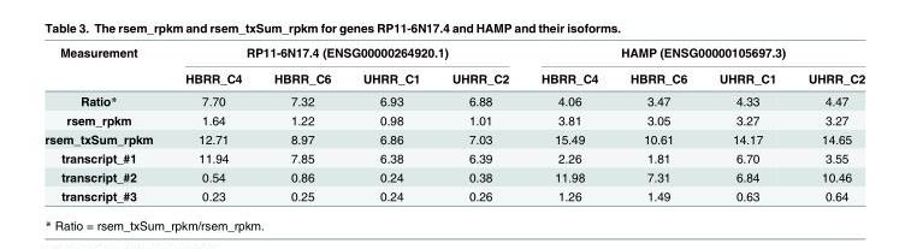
<table><thead><tr><td rowspan="2">Measurement</td><td colspan="4">RP11-6N17.4 (ENSG00000264920.1)</td><td colspan="4">HAMP (ENSG00000105697.3)</td></tr><tr><td>HBRR_C4</td><td>HBRR_C6</td><td>UHRR_C1</td><td>UHRR_C2</td><td>HBRR_C4</td><td>HBRR_C6</td><td>UHRR_C1</td><td>UHRR_C2</td></tr></thead><tbody><tr><td>Ratio*</td><td>7.70</td><td>7.32</td><td>6.93</td><td>6.88</td><td>4.06</td><td>3.47</td><td>4.33</td><td>4.47</td></tr><tr><td>rsem_rpkm</td><td>1.64</td><td>1.22</td><td>0.98</td><td>1.01</td><td>3.81</td><td>3.05</td><td>3.27</td><td>3.27</td></tr><tr><td>rsem_txSum_rpkm</td><td>12.71</td><td>8.97</td><td>6.86</td><td>7.03</td><td>15.49</td><td>10.61</td><td>14.17</td><td>14.65</td></tr><tr><td>transcript_#1</td><td>11.94</td><td>7.85</td><td>6.38</td><td>6.39</td><td>2.26</td><td>1.81</td><td>6.70</td><td>3.55</td></tr><tr><td>transcript_#2</td><td>0.54</td><td>0.86</td><td>0.24</td><td>0.38</td><td>11.98</td><td>7.31</td><td>6.84</td><td>10.46</td></tr><tr><td>transcript_#3</td><td>0.23</td><td>0.25</td><td>0.24</td><td>0.26</td><td>1.26</td><td>1.49</td><td>0.63</td><td>0.64</td></tr></tbody></table>